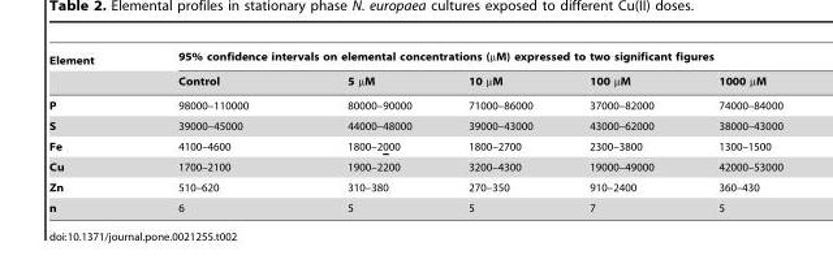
<table><thead><tr><td rowspan="2">Element</td><td colspan="5">95% confidence intervals on elemental concentrations (µM) expressed to two significant figures</td></tr><tr><td>Control</td><td>5 µM</td><td>10 µM</td><td>100 µM</td><td>1000 µM</td></tr></thead><tbody><tr><td>P</td><td>98000–110000</td><td>80000–90000</td><td>71000–86000</td><td>37000–82000</td><td>74000–84000</td></tr><tr><td>S</td><td>39000–45000</td><td>44000–48000</td><td>39000–43000</td><td>43000–62000</td><td>38000–43000</td></tr><tr><td>Fe</td><td>4100–4600</td><td>1800–2000</td><td>1800–2700</td><td>2300–3800</td><td>1300–1500</td></tr><tr><td>Cu</td><td>1700–2100</td><td>1900–2200</td><td>3200–4300</td><td>19000–49000</td><td>42000–53000</td></tr><tr><td>Zn</td><td>510–620</td><td>310–380</td><td>270–350</td><td>910–2400</td><td>360–430</td></tr><tr><td>n</td><td>6</td><td>5</td><td>5</td><td>7</td><td>5</td></tr></tbody></table>